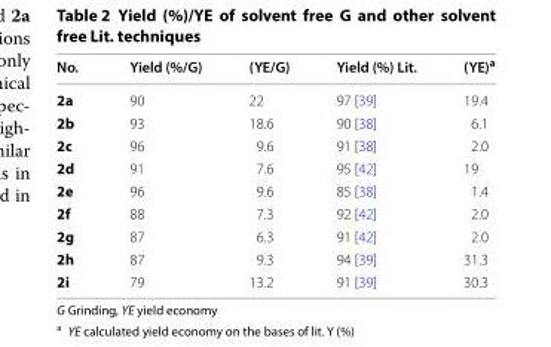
<table><thead><tr><td>No.</td><td>Yield (%/G)</td><td>(YE/G)</td><td>Yield (%) Lit.</td><td>(YE)<sup>a</sup></td></tr></thead><tbody><tr><td>2a</td><td>90</td><td>22</td><td>97 [39]</td><td>19.4</td></tr><tr><td>2b</td><td>93</td><td>18.6</td><td>90 [38]</td><td>6.1</td></tr><tr><td>2c</td><td>96</td><td>9.6</td><td>91 [38]</td><td>2.0</td></tr><tr><td>2d</td><td>91</td><td>7.6</td><td>95 [42]</td><td>19</td></tr><tr><td>2e</td><td>96</td><td>9.6</td><td>85 [38]</td><td>1.4</td></tr><tr><td>2f</td><td>88</td><td>7.3</td><td>92 [42]</td><td>2.0</td></tr><tr><td>2g</td><td>87</td><td>6.3</td><td>91 [42]</td><td>2.0</td></tr><tr><td>2h</td><td>87</td><td>9.3</td><td>94 [39]</td><td>31.3</td></tr><tr><td>2i</td><td>79</td><td>13.2</td><td>91 [39]</td><td>30.3</td></tr></tbody></table>